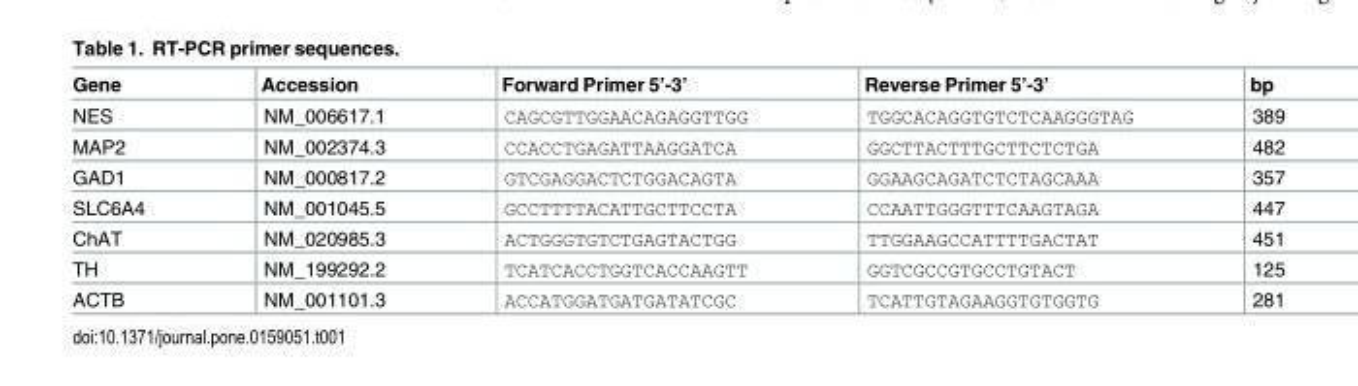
<table><thead><tr><td>Gene</td><td>Accession</td><td>Forward Primer 5’-3’</td><td>Reverse Primer 5’-3’</td><td>bp</td></tr></thead><tbody><tr><td>NES</td><td>NM_006617.1</td><td>CAGCGTTGGAACAGAGGTTGG</td><td>TGGCACAGGTGTCTCAAGGGTAG</td><td>389</td></tr><tr><td>MAP2</td><td>NM_002374.3</td><td>CCACCTGAGATTAAGGATCA</td><td>GGCTTACTTTGCTTCTCTGA</td><td>482</td></tr><tr><td>GAD1</td><td>NM_000817.2</td><td>GTCGAGGACTCTGGACAGTA</td><td>GGAAGCAGATCTCTAGCAAA</td><td>357</td></tr><tr><td>SLC6A4</td><td>NM_001045.5</td><td>GCCTTTTACATTGCTTCCTA</td><td>CCAATTGGGTTTCAAGTAGA</td><td>447</td></tr><tr><td>ChAT</td><td>NM_020985.3</td><td>ACTGGGTGTCTGAGTACTGG</td><td>TTGGAAGCCATTTTGACTAT</td><td>451</td></tr><tr><td>TH</td><td>NM_199292.2</td><td>TCATCACCTGGTCACCAAGTT</td><td>GGTCGCCGTGCCTGTACT</td><td>125</td></tr><tr><td>ACTB</td><td>NM_001101.3</td><td>ACCATGGATGATGATATCGC</td><td>TCATTGTAGAAGGTGTGGTG</td><td>281</td></tr></tbody></table>